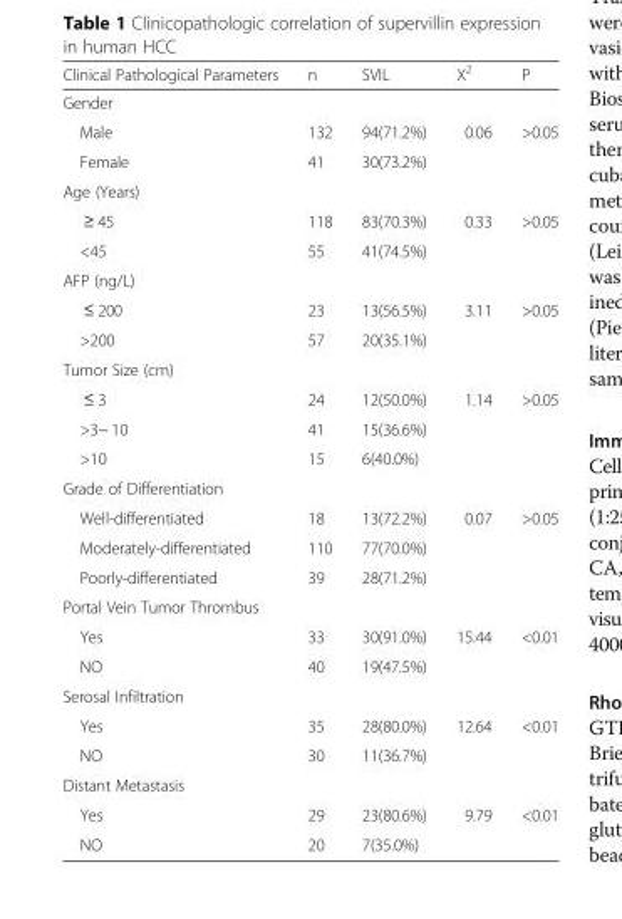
<table><thead><tr><td>Clinical Pathological Parameters</td><td>n</td><td>SVIL</td><td>Χ<sup>2</sup></td><td>P</td></tr></thead><tbody><tr><td colspan="5">Gender</td></tr><tr><td>Male</td><td>132</td><td>94(71.2%)</td><td rowspan="2">0.06</td><td rowspan="2">&gt;0.05</td></tr><tr><td>Female</td><td>41</td><td>30(73.2%)</td></tr><tr><td colspan="5">Age (Years)</td></tr><tr><td>≥ 45</td><td>118</td><td>83(70.3%)</td><td rowspan="2">0.33</td><td rowspan="2">&gt;0.05</td></tr><tr><td>&lt;45</td><td>55</td><td>41(74.5%)</td></tr><tr><td colspan="5">AFP (ng/L)</td></tr><tr><td>≤ 200</td><td>23</td><td>13(56.5%)</td><td rowspan="2">3.11</td><td rowspan="2">&gt;0.05</td></tr><tr><td>&gt;200</td><td>57</td><td>20(35.1%)</td></tr><tr><td colspan="5">Tumor Size (cm)</td></tr><tr><td>≤ 3</td><td>24</td><td>12(50.0%)</td><td rowspan="3">1.14</td><td rowspan="3">&gt;0.05</td></tr><tr><td>&gt;3~ 10</td><td>41</td><td>15(36.6%)</td></tr><tr><td>&gt;10</td><td>15</td><td>6(40.0%)</td></tr><tr><td colspan="5">Grade of Differentiation</td></tr><tr><td>Well-differentiated</td><td>18</td><td>13(72.2%)</td><td rowspan="3">0.07</td><td rowspan="3">&gt;0.05</td></tr><tr><td>Moderately-differentiated</td><td>110</td><td>77(70.0%)</td></tr><tr><td>Poorly-differentiated</td><td>39</td><td>28(71.2%)</td></tr><tr><td colspan="5">Portal Vein Tumor Thrombus</td></tr><tr><td>Yes</td><td>33</td><td>30(91.0%)</td><td rowspan="2">15.44</td><td rowspan="2">&lt;0.01</td></tr><tr><td>NO</td><td>40</td><td>19(47.5%)</td></tr><tr><td colspan="5">Serosal Infiltration</td></tr><tr><td>Yes</td><td>35</td><td>28(80.0%)</td><td rowspan="2">12.64</td><td rowspan="2">&lt;0.01</td></tr><tr><td>NO</td><td>30</td><td>11(36.7%)</td></tr><tr><td colspan="5">Distant Metastasis</td></tr><tr><td>Yes</td><td>29</td><td>23(80.6%)</td><td rowspan="2">9.79</td><td rowspan="2">&lt;0.01</td></tr><tr><td>NO</td><td>20</td><td>7(35.0%)</td></tr></tbody></table>